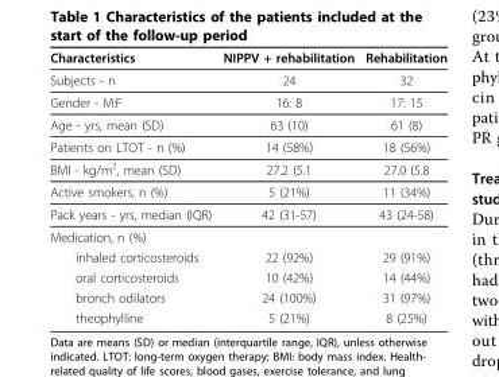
<table><thead><tr><td>Characteristics</td><td>NIPPV + rehabilitation</td><td>Rehabilitation</td></tr></thead><tbody><tr><td>Subjects - n</td><td>24</td><td>32</td></tr><tr><td>Gender - M:F</td><td>16: 8</td><td>17: 15</td></tr><tr><td>Age - yrs, mean (SD)</td><td>63 (10)</td><td>61 (8)</td></tr><tr><td>Patients on LTOT - n (%)</td><td>14 (58%)</td><td>18 (56%)</td></tr><tr><td>BMI - kg/m<sup>2</sup>, mean (SD)</td><td>27.2 (5.1</td><td>27.0 (5.8</td></tr><tr><td>Active smokers, n (%)</td><td>5 (21%)</td><td>11 (34%)</td></tr><tr><td>Pack years - yrs, median (IQR)</td><td>42 (31-57)</td><td>43 (24-58)</td></tr><tr><td colspan="3">Medication, n (%)</td></tr><tr><td>inhaled corticosteroids</td><td>22 (92%)</td><td>29 (91%)</td></tr><tr><td>oral corticosteroids</td><td>10 (42%)</td><td>14 (44%)</td></tr><tr><td>bronch odilators</td><td>24 (100%)</td><td>31 (97%)</td></tr><tr><td>theophylline</td><td>5 (21%)</td><td>8 (25%)</td></tr></tbody></table>